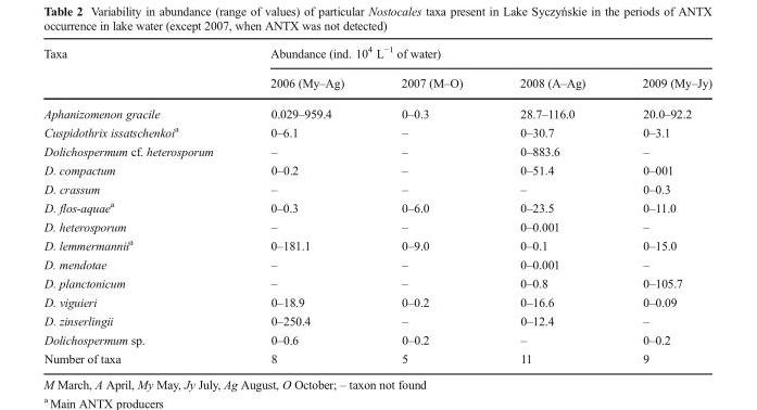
<table><thead><tr><td rowspan="2">Taxa</td><td colspan="4">Abundance (ind. 10<sup>4</sup> L<sup>−1</sup> of water)</td></tr><tr><td>2006 (My–Ag)</td><td>2007 (M–O)</td><td>2008 (A–Ag)</td><td>2009 (My–Jy)</td></tr></thead><tbody><tr><td>Aphanizomenon gracile</td><td>0.029–959.4</td><td>0–0.3</td><td>28.7–116.0</td><td>20.0–92.2</td></tr><tr><td>Cuspidothrix issatschenkoi<sup>a</sup></td><td>0–6.1</td><td>–</td><td>0–30.7</td><td>0–3.1</td></tr><tr><td>Dolichospermum cf. heterosporum</td><td>–</td><td>–</td><td>0–883.6</td><td>–</td></tr><tr><td>D. compactum</td><td>0–0.2</td><td>–</td><td>0–51.4</td><td>0–001</td></tr><tr><td>D. crassum</td><td>–</td><td>–</td><td>–</td><td>0–0.3</td></tr><tr><td>D. flos-aquae<sup>a</sup></td><td>0–0.3</td><td>0–6.0</td><td>0–23.5</td><td>0–11.0</td></tr><tr><td>D. heterosporum</td><td>–</td><td>–</td><td>0–0.001</td><td>–</td></tr><tr><td>D. lemmermannii<sup>a</sup></td><td>0–181.1</td><td>0–9.0</td><td>0–0.1</td><td>0–15.0</td></tr><tr><td>D. mendotae</td><td>–</td><td>–</td><td>0–0.001</td><td>–</td></tr><tr><td>D. planctonicum</td><td>–</td><td>–</td><td>0–0.8</td><td>0–105.7</td></tr><tr><td>D. viguieri</td><td>0–18.9</td><td>0–0.2</td><td>0–16.6</td><td>0–0.09</td></tr><tr><td>D. zinserlingii</td><td>0–250.4</td><td>–</td><td>0–12.4</td><td>–</td></tr><tr><td>Dolichospermum sp.</td><td>0–0.6</td><td>0–0.2</td><td>–</td><td>0–0.2</td></tr><tr><td>Number of taxa</td><td>8</td><td>5</td><td>11</td><td>9</td></tr></tbody></table>